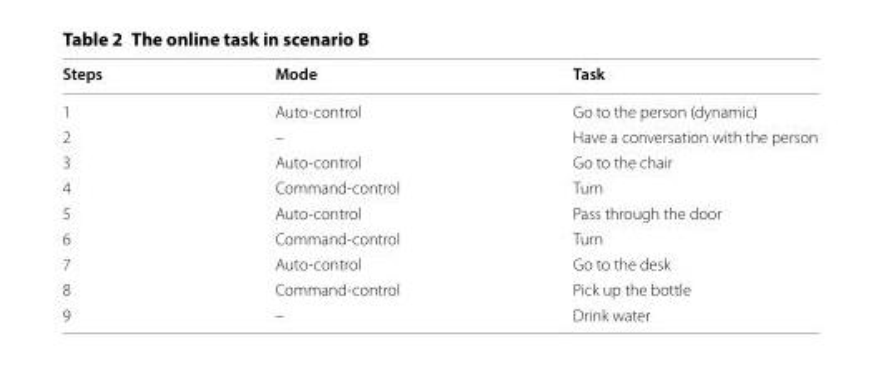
<table><thead><tr><td>Steps</td><td>Mode</td><td>Task</td></tr></thead><tbody><tr><td>1</td><td>Auto-control</td><td>Go to the person (dynamic)</td></tr><tr><td>2</td><td>–</td><td>Have a conversation with the person</td></tr><tr><td>3</td><td>Auto-control</td><td>Go to the chair</td></tr><tr><td>4</td><td>Command-control</td><td>Turn</td></tr><tr><td>5</td><td>Auto-control</td><td>Pass through the door</td></tr><tr><td>6</td><td>Command-control</td><td>Turn</td></tr><tr><td>7</td><td>Auto-control</td><td>Go to the desk</td></tr><tr><td>8</td><td>Command-control</td><td>Pick up the bottle</td></tr><tr><td>9</td><td>–</td><td>Drink water</td></tr></tbody></table>